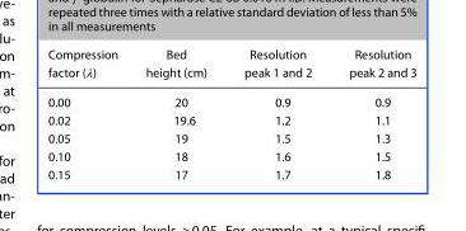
<table><thead><tr><td>Compression factor (𝜆)</td><td>Bed height (cm)</td><td>Resolution peak 1 and 2</td><td>Resolution peak 2 and 3</td></tr></thead><tbody><tr><td>0.00</td><td>20</td><td>0.9</td><td>0.9</td></tr><tr><td>0.02</td><td>19.6</td><td>1.2</td><td>1.1</td></tr><tr><td>0.05</td><td>19</td><td>1.5</td><td>1.3</td></tr><tr><td>0.10</td><td>18</td><td>1.6</td><td>1.5</td></tr><tr><td>0.15</td><td>17</td><td>1.7</td><td>1.8</td></tr></tbody></table>